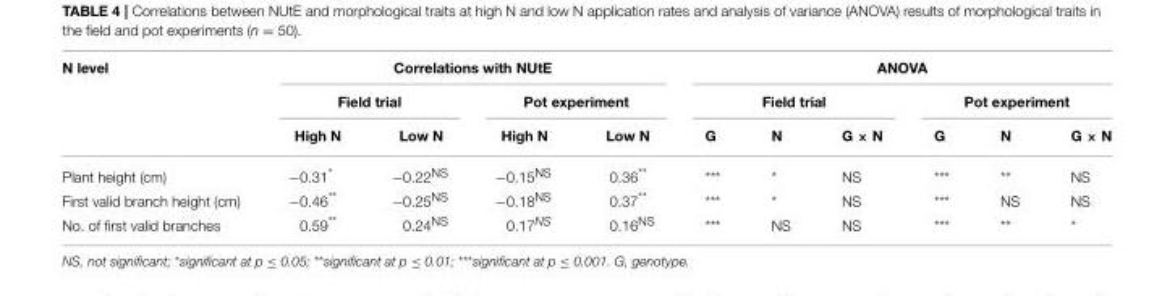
<table><thead><tr><td rowspan="3">N level</td><td colspan="4">Correlations with NUtE</td><td colspan="6">ANOVA</td></tr><tr><td colspan="2">Field trial</td><td colspan="2">Pot experiment</td><td colspan="3">Field trial</td><td colspan="3">Pot experiment</td></tr><tr><td>High N</td><td>Low N</td><td>High N</td><td>Low N</td><td>G</td><td>N</td><td>G × N</td><td>G</td><td>N</td><td>G × N</td></tr></thead><tbody><tr><td>Plant height (cm)</td><td>−0.31*</td><td>−0.22<sup>NS</sup></td><td>−0.15<sup>NS</sup></td><td>0.36**</td><td>***</td><td>*</td><td>NS</td><td>***</td><td>**</td><td>NS</td></tr><tr><td>First valid branch height (cm)</td><td>−0.46**</td><td>−0.25<sup>NS</sup></td><td>−0.18<sup>NS</sup></td><td>0.37**</td><td>***</td><td>*</td><td>NS</td><td>***</td><td>NS</td><td>NS</td></tr><tr><td>No. of first valid branches</td><td>0.59**</td><td>0.24<sup>NS</sup></td><td>0.17<sup>NS</sup></td><td>0.16<sup>NS</sup></td><td>***</td><td>NS</td><td>NS</td><td>***</td><td>**</td><td>*</td></tr></tbody></table>